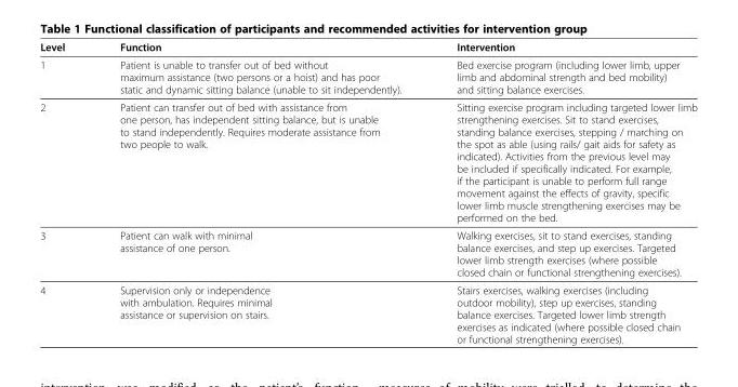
<table><thead><tr><td>Level</td><td>Function</td><td>Intervention</td></tr></thead><tbody><tr><td>1</td><td>Patient is unable to transfer out of bed without maximum assistance (two persons or a hoist) and has poor static and dynamic sitting balance (unable to sit independently).</td><td>Bed exercise program (including lower limb, upper limb and abdominal strength and bed mobility) and sitting balance exercises.</td></tr><tr><td>2</td><td>Patient can transfer out of bed with assistance from one person, has independent sitting balance, but is unable to stand independently. Requires moderate assistance from two people to walk.</td><td>Sitting exercise program including targeted lower limb strengthening exercises. Sit to stand exercises, standing balance exercises, stepping / marching on the spot as able (using rails/ gait aids for safety as indicated). Activities from the previous level may be included if specifically indicated. For example, if the participant is unable to perform full range movement against the effects of gravity, specific lower limb muscle strengthening exercises may be performed on the bed.</td></tr><tr><td>3</td><td>Patient can walk with minimal assistance of one person.</td><td>Walking exercises, sit to stand exercises, standing balance exercises, and step up exercises. Targeted lower limb strength exercises (where possible closed chain or functional strengthening exercises).</td></tr><tr><td>4</td><td>Supervision only or independence with ambulation. Requires minimal assistance or supervision on stairs.</td><td>Stairs exercises, walking exercises (including outdoor mobility), step up exercises, standing balance exercises. Targeted lower limb strength exercises as indicated (where possible closed chain or functional strengthening exercises).</td></tr></tbody></table>